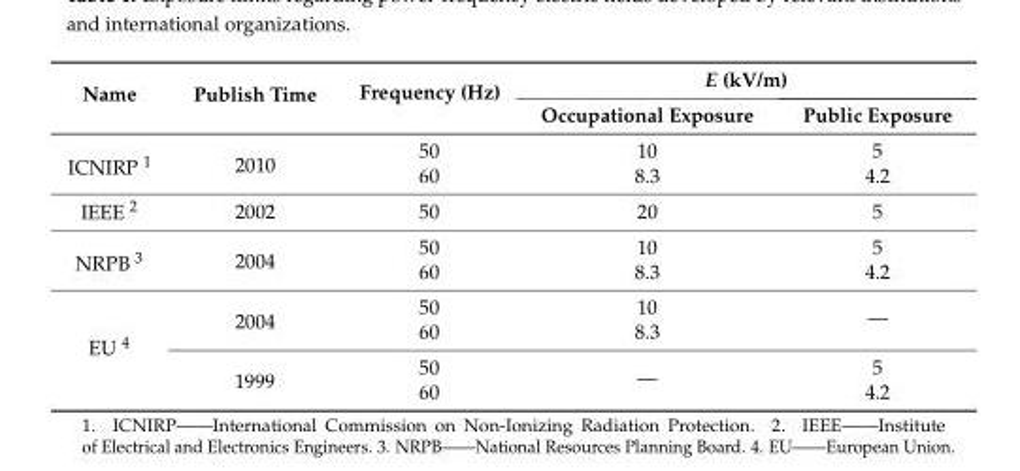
<table><thead><tr><td rowspan="2">Name</td><td rowspan="2">Publish Time</td><td rowspan="2">Frequency (Hz)</td><td colspan="2">E (kV/m)</td></tr><tr><td>Occupational Exposure</td><td>Public Exposure</td></tr></thead><tbody><tr><td rowspan="2">ICNIRP <sup>1</sup></td><td rowspan="2">2010</td><td>50</td><td>10</td><td>5</td></tr><tr><td>60</td><td>8.3</td><td>4.2</td></tr><tr><td>IEEE <sup>2</sup></td><td>2002</td><td>50</td><td>20</td><td>5</td></tr><tr><td rowspan="2">NRPB <sup>3</sup></td><td rowspan="2">2004</td><td>50</td><td>10</td><td>5</td></tr><tr><td>60</td><td>8.3</td><td>4.2</td></tr><tr><td rowspan="4">EU <sup>4</sup></td><td rowspan="2">2004</td><td>50</td><td>10</td><td rowspan="2">—</td></tr><tr><td>60</td><td>8.3</td></tr><tr><td rowspan="2">1999</td><td>50</td><td rowspan="2">—</td><td>5</td></tr><tr><td>60</td><td>4.2</td></tr></tbody></table>